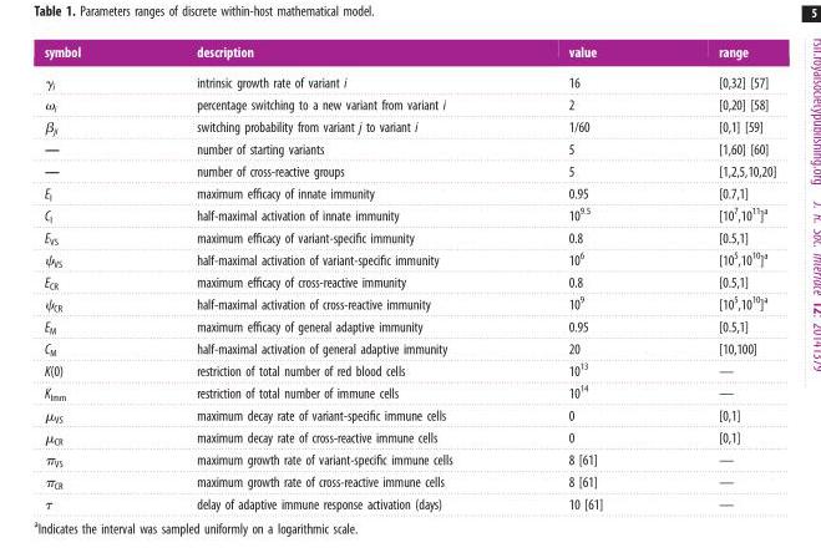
<table><thead><tr><td>symbol</td><td>description</td><td>value</td><td>range</td></tr></thead><tbody><tr><td>γ<sub>i</sub></td><td>intrinsic growth rate of variant i</td><td>16</td><td>[0,32] [57]</td></tr><tr><td>ω<sub>i</sub></td><td>percentage switching to a new variant from variant i</td><td>2</td><td>[0,20] [58]</td></tr><tr><td>β<sub>ji</sub></td><td>switching probability from variant j to variant i</td><td>1/60</td><td>[0,1] [59]</td></tr><tr><td>—</td><td>number of starting variants</td><td>5</td><td>[1,60] [60]</td></tr><tr><td>—</td><td>number of cross-reactive groups</td><td>5</td><td>[1,2,5,10,20]</td></tr><tr><td>E<sub>I</sub></td><td>maximum efficacy of innate immunity</td><td>0.95</td><td>[0.7,1]</td></tr><tr><td>C<sub>I</sub></td><td>half-maximal activation of innate immunity</td><td>10<sup>9.5</sup></td><td>[10<sup>7</sup>,10<sup>11</sup>]<sup>a</sup></td></tr><tr><td>E<sub>VS</sub></td><td>maximum efficacy of variant-specific immunity</td><td>0.8</td><td>[0.5,1]</td></tr><tr><td>ψ<sub>VS</sub></td><td>half-maximal activation of variant-specific immunity</td><td>10<sup>6</sup></td><td>[10<sup>5</sup>,10<sup>10</sup>]<sup>a</sup></td></tr><tr><td>E<sub>CR</sub></td><td>maximum efficacy of cross-reactive immunity</td><td>0.8</td><td>[0.5,1]</td></tr><tr><td>ψ<sub>CR</sub></td><td>half-maximal activation of cross-reactive immunity</td><td>10<sup>9</sup></td><td>[10<sup>5</sup>,10<sup>10</sup>]<sup>a</sup></td></tr><tr><td>E<sub>M</sub></td><td>maximum efficacy of general adaptive immunity</td><td>0.95</td><td>[0.5,1]</td></tr><tr><td>C<sub>M</sub></td><td>half-maximal activation of general adaptive immunity</td><td>20</td><td>[10,100]</td></tr><tr><td>K(0)</td><td>restriction of total number of red blood cells</td><td>10<sup>13</sup></td><td>—</td></tr><tr><td>K<sub>Imm</sub></td><td>restriction of total number of immune cells</td><td>10<sup>14</sup></td><td>—</td></tr><tr><td>μ<sub>VS</sub></td><td>maximum decay rate of variant-specific immune cells</td><td>0</td><td>[0,1]</td></tr><tr><td>μ<sub>CR</sub></td><td>maximum decay rate of cross-reactive immune cells</td><td>0</td><td>[0,1]</td></tr><tr><td>π<sub>VS</sub></td><td>maximum growth rate of variant-specific immune cells</td><td>8 [61]</td><td>—</td></tr><tr><td>π<sub>CR</sub></td><td>maximum growth rate of cross-reactive immune cells</td><td>8 [61]</td><td>—</td></tr><tr><td>τ</td><td>delay of adaptive immune response activation (days)</td><td>10 [61]</td><td>—</td></tr></tbody></table>